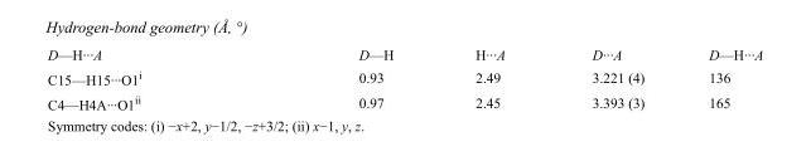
<table><tbody><tr><td>D—H···A</td><td>D—H</td><td>H···A</td><td>D···A</td><td>D—H···A</td></tr><tr><td>C15—H15···O1<sup>i</sup></td><td>0.93</td><td>2.49</td><td>3.221 (4)</td><td>136</td></tr><tr><td>C4—H4A···O1<sup>ii</sup></td><td>0.97</td><td>2.45</td><td>3.393 (3)</td><td>165</td></tr></tbody></table>